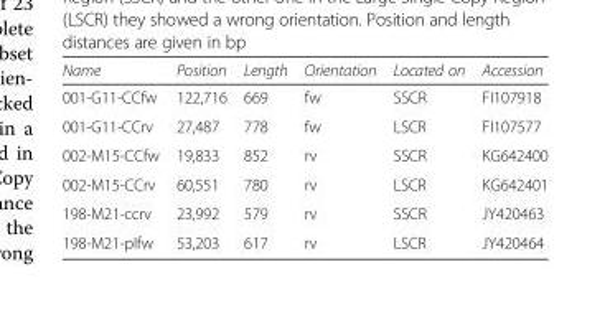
<table><thead><tr><td>Name</td><td>Position</td><td>Length</td><td>Orientation</td><td>Located on</td><td>Accession</td></tr></thead><tbody><tr><td>001-G11-CCfw</td><td>122,716</td><td>669</td><td>fw</td><td>SSCR</td><td>FI107918</td></tr><tr><td>001-G11-CCrv</td><td>27,487</td><td>778</td><td>fw</td><td>LSCR</td><td>FI107577</td></tr><tr><td>002-M15-CCfw</td><td>19,833</td><td>852</td><td>rv</td><td>SSCR</td><td>KG642400</td></tr><tr><td>002-M15-CCrv</td><td>60,551</td><td>780</td><td>rv</td><td>LSCR</td><td>KG642401</td></tr><tr><td>198-M21-ccrv</td><td>23,992</td><td>579</td><td>rv</td><td>SSCR</td><td>JY420463</td></tr><tr><td>198-M21-pIfw</td><td>53,203</td><td>617</td><td>rv</td><td>LSCR</td><td>JY420464</td></tr></tbody></table>